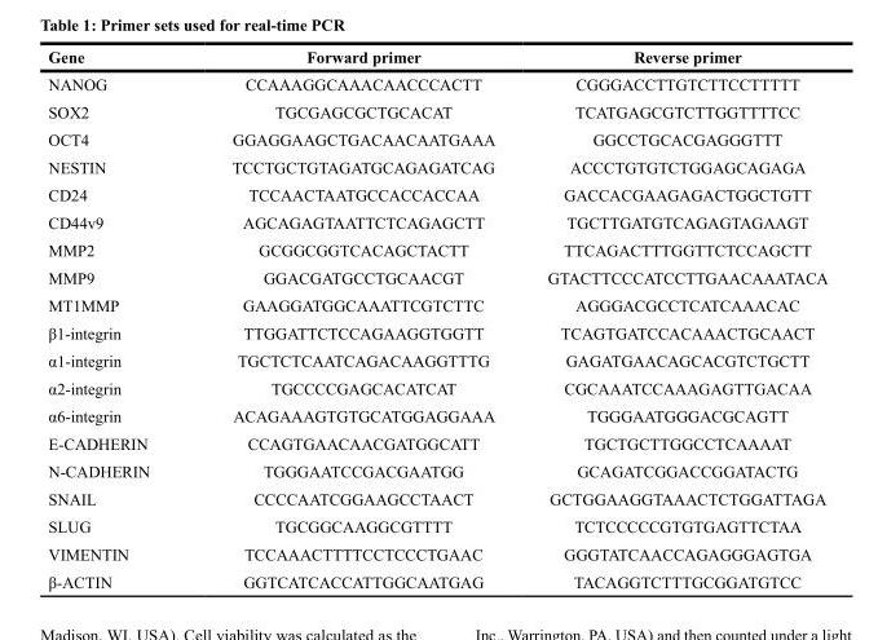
<table><thead><tr><td>Gene</td><td>Forward primer</td><td>Reverse primer</td></tr></thead><tbody><tr><td>NANOG</td><td>CCAAAGGCAAACAACCCACTT</td><td>CGGGACCTTGTCTTCCTTTTT</td></tr><tr><td>SOX2</td><td>TGCGAGCGCTGCACAT</td><td>TCATGAGCGTCTTGGTTTTCC</td></tr><tr><td>OCT4</td><td>GGAGGAAGCTGACAACAATGAAA</td><td>GGCCTGCACGAGGGTTT</td></tr><tr><td>NESTIN</td><td>TCCTGCTGTAGATGCAGAGATCAG</td><td>ACCCTGTGTCTGGAGCAGAGA</td></tr><tr><td>CD24</td><td>TCCAACTAATGCCACCACCAA</td><td>GACCACGAAGAGACTGGCTGTT</td></tr><tr><td>CD44v9</td><td>AGCAGAGTAATTCTCAGAGCTT</td><td>TGCTTGATGTCAGAGTAGAAGT</td></tr><tr><td>MMP2</td><td>GCGGCGGTCACAGCTACTT</td><td>TTCAGACTTTGGTTCTCCAGCTT</td></tr><tr><td>MMP9</td><td>GGACGATGCCTGCAACGT</td><td>GTACTTCCCATCCTTGAACAAATACA</td></tr><tr><td>MT1MMP</td><td>GAAGGATGGCAAATTCGTCTTC</td><td>AGGGACGCCTCATCAAACAC</td></tr><tr><td>β1-integrin</td><td>TTGGATTCTCCAGAAGGTGGTT</td><td>TCAGTGATCCACAAACTGCAACT</td></tr><tr><td>α1-integrin</td><td>TGCTCTCAATCAGACAAGGTTTG</td><td>GAGATGAACAGCACGTCTGCTT</td></tr><tr><td>α2-integrin</td><td>TGCCCCGAGCACATCAT</td><td>CGCAAATCCAAAGAGTTGACAA</td></tr><tr><td>α6-integrin</td><td>ACAGAAAGTGTGCATGGAGGAAA</td><td>TGGGAATGGGACGCAGTT</td></tr><tr><td>E-CADHERIN</td><td>CCAGTGAACAACGATGGCATT</td><td>TGCTGCTTGGCCTCAAAAT</td></tr><tr><td>N-CADHERIN</td><td>TGGGAATCCGACGAATGG</td><td>GCAGATCGGACCGGATACTG</td></tr><tr><td>SNAIL</td><td>CCCCAATCGGAAGCCTAACT</td><td>GCTGGAAGGTAAACTCTGGATTAGA</td></tr><tr><td>SLUG</td><td>TGCGGCAAGGCGTTTT</td><td>TCTCCCCCGTGTGAGTTCTAA</td></tr><tr><td>VIMENTIN</td><td>TCCAAACTTTTCCTCCCTGAAC</td><td>GGGTATCAACCAGAGGGAGTGA</td></tr><tr><td>β-ACTIN</td><td>GGTCATCACCATTGGCAATGAG</td><td>TACAGGTCTTTGCGGATGTCC</td></tr></tbody></table>